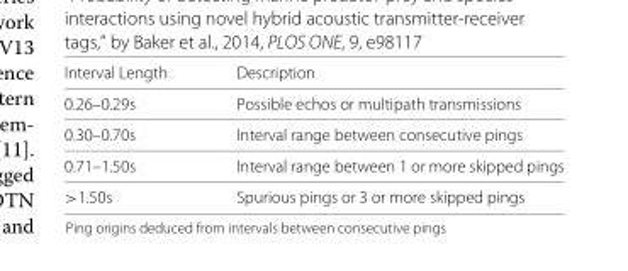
<table><thead><tr><td>Interval Length</td><td>Description</td></tr></thead><tbody><tr><td>0.26–0.29s</td><td>Possible echos or multipath transmissions</td></tr><tr><td>0.30–0.70s</td><td>Interval range between consecutive pings</td></tr><tr><td>0.71–1.50s</td><td>Interval range between 1 or more skipped pings</td></tr><tr><td>&gt;1.50s</td><td>Spurious pings or 3 or more skipped pings</td></tr></tbody></table>